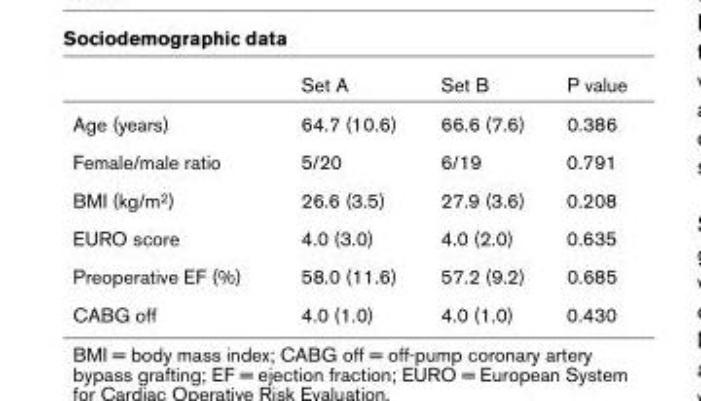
<table><thead><tr><td></td><td>Set A</td><td>Set B</td><td>P value</td></tr></thead><tbody><tr><td>Age (years)</td><td>64.7 (10.6)</td><td>66.6 (7.6)</td><td>0.386</td></tr><tr><td>Female/male ratio</td><td>5/20</td><td>6/19</td><td>0.791</td></tr><tr><td>BMI (kg/m<sup>2</sup>)</td><td>26.6 (3.5)</td><td>27.9 (3.6)</td><td>0.208</td></tr><tr><td>EURO score</td><td>4.0 (3.0)</td><td>4.0 (2.0)</td><td>0.635</td></tr><tr><td>Preoperative EF (%)</td><td>58.0 (11.6)</td><td>57.2 (9.2)</td><td>0.685</td></tr><tr><td>CABG off</td><td>4.0 (1.0)</td><td>4.0 (1.0)</td><td>0.430</td></tr></tbody></table>